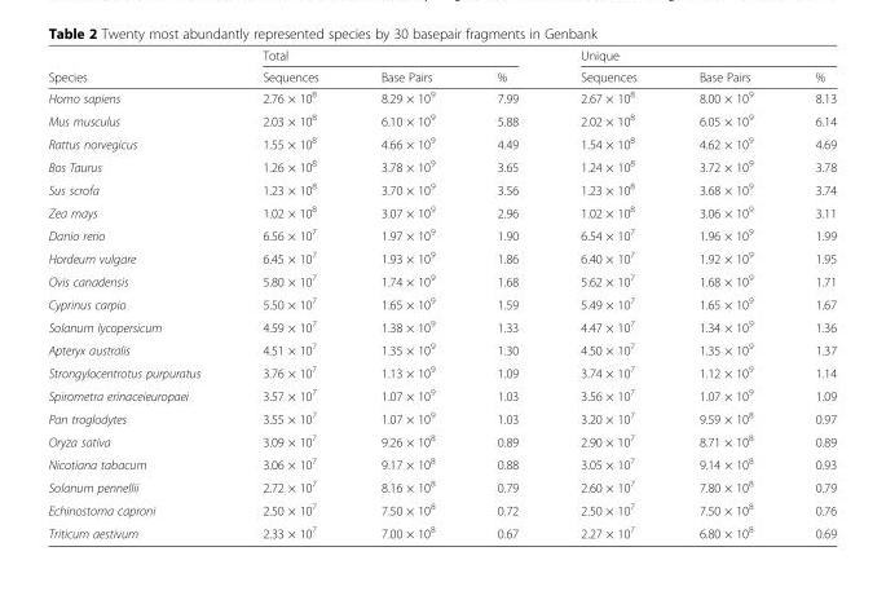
<table><thead><tr><td rowspan="2">Species</td><td colspan="3">Total</td><td colspan="3">Unique</td></tr><tr><td>Sequences</td><td>Base Pairs</td><td>%</td><td>Sequences</td><td>Base Pairs</td><td>%</td></tr></thead><tbody><tr><td>Homo sapiens</td><td>2.76 × 10<sup>8</sup></td><td>8.29 × 10<sup>9</sup></td><td>7.99</td><td>2.67 × 10<sup>8</sup></td><td>8.00 × 10<sup>9</sup></td><td>8.13</td></tr><tr><td>Mus musculus</td><td>2.03 × 10<sup>8</sup></td><td>6.10 × 10<sup>9</sup></td><td>5.88</td><td>2.02 × 10<sup>8</sup></td><td>6.05 × 10<sup>9</sup></td><td>6.14</td></tr><tr><td>Rattus norvegicus</td><td>1.55 × 10<sup>8</sup></td><td>4.66 × 10<sup>9</sup></td><td>4.49</td><td>1.54 × 10<sup>8</sup></td><td>4.62 × 10<sup>9</sup></td><td>4.69</td></tr><tr><td>Bos Taurus</td><td>1.26 × 10<sup>8</sup></td><td>3.78 × 10<sup>9</sup></td><td>3.65</td><td>1.24 × 10<sup>8</sup></td><td>3.72 × 10<sup>9</sup></td><td>3.78</td></tr><tr><td>Sus scrofa</td><td>1.23 × 10<sup>8</sup></td><td>3.70 × 10<sup>9</sup></td><td>3.56</td><td>1.23 × 10<sup>8</sup></td><td>3.68 × 10<sup>9</sup></td><td>3.74</td></tr><tr><td>Zea mays</td><td>1.02 × 10<sup>8</sup></td><td>3.07 × 10<sup>9</sup></td><td>2.96</td><td>1.02 × 10<sup>8</sup></td><td>3.06 × 10<sup>9</sup></td><td>3.11</td></tr><tr><td>Danio rerio</td><td>6.56 × 10<sup>7</sup></td><td>1.97 × 10<sup>9</sup></td><td>1.90</td><td>6.54 × 10<sup>7</sup></td><td>1.96 × 10<sup>9</sup></td><td>1.99</td></tr><tr><td>Hordeum vulgare</td><td>6.45 × 10<sup>7</sup></td><td>1.93 × 10<sup>9</sup></td><td>1.86</td><td>6.40 × 10<sup>7</sup></td><td>1.92 × 10<sup>9</sup></td><td>1.95</td></tr><tr><td>Ovis canadensis</td><td>5.80 × 10<sup>7</sup></td><td>1.74 × 10<sup>9</sup></td><td>1.68</td><td>5.62 × 10<sup>7</sup></td><td>1.68 × 10<sup>9</sup></td><td>1.71</td></tr><tr><td>Cyprinus carpio</td><td>5.50 × 10<sup>7</sup></td><td>1.65 × 10<sup>9</sup></td><td>1.59</td><td>5.49 × 10<sup>7</sup></td><td>1.65 × 10<sup>9</sup></td><td>1.67</td></tr><tr><td>Solanum lycopersicum</td><td>4.59 × 10<sup>7</sup></td><td>1.38 × 10<sup>9</sup></td><td>1.33</td><td>4.47 × 10<sup>7</sup></td><td>1.34 × 10<sup>9</sup></td><td>1.36</td></tr><tr><td>Apteryx australis</td><td>4.51 × 10<sup>7</sup></td><td>1.35 × 10<sup>9</sup></td><td>1.30</td><td>4.50 × 10<sup>7</sup></td><td>1.35 × 10<sup>9</sup></td><td>1.37</td></tr><tr><td>Strongylocentrotus purpuratus</td><td>3.76 × 10<sup>7</sup></td><td>1.13 × 10<sup>9</sup></td><td>1.09</td><td>3.74 × 10<sup>7</sup></td><td>1.12 × 10<sup>9</sup></td><td>1.14</td></tr><tr><td>Spirometra erinaceieuropaei</td><td>3.57 × 10<sup>7</sup></td><td>1.07 × 10<sup>9</sup></td><td>1.03</td><td>3.56 × 10<sup>7</sup></td><td>1.07 × 10<sup>9</sup></td><td>1.09</td></tr><tr><td>Pan troglodytes</td><td>3.55 × 10<sup>7</sup></td><td>1.07 × 10<sup>9</sup></td><td>1.03</td><td>3.20 × 10<sup>7</sup></td><td>9.59 × 10<sup>8</sup></td><td>0.97</td></tr><tr><td>Oryza sativa</td><td>3.09 × 10<sup>7</sup></td><td>9.26 × 10<sup>8</sup></td><td>0.89</td><td>2.90 × 10<sup>7</sup></td><td>8.71 × 10<sup>8</sup></td><td>0.89</td></tr><tr><td>Nicotiana tabacum</td><td>3.06 × 10<sup>7</sup></td><td>9.17 × 10<sup>8</sup></td><td>0.88</td><td>3.05 × 10<sup>7</sup></td><td>9.14 × 10<sup>8</sup></td><td>0.93</td></tr><tr><td>Solanum pennellii</td><td>2.72 × 10<sup>7</sup></td><td>8.16 × 10<sup>8</sup></td><td>0.79</td><td>2.60 × 10<sup>7</sup></td><td>7.80 × 10<sup>8</sup></td><td>0.79</td></tr><tr><td>Echinostoma caproni</td><td>2.50 × 10<sup>7</sup></td><td>7.50 × 10<sup>8</sup></td><td>0.72</td><td>2.50 × 10<sup>7</sup></td><td>7.50 × 10<sup>8</sup></td><td>0.76</td></tr><tr><td>Triticum aestivum</td><td>2.33 × 10<sup>7</sup></td><td>7.00 × 10<sup>8</sup></td><td>0.67</td><td>2.27 × 10<sup>7</sup></td><td>6.80 × 10<sup>8</sup></td><td>0.69</td></tr></tbody></table>